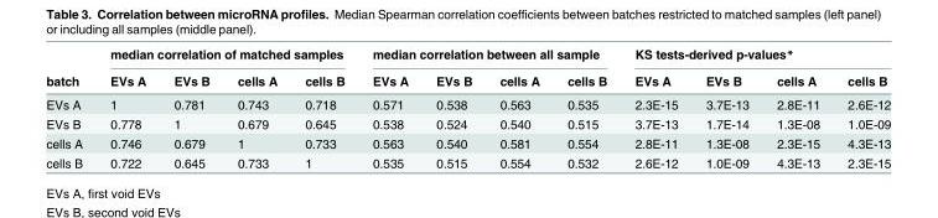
<table><thead><tr><td rowspan="2">batch</td><td colspan="4">median correlation of matched samples</td><td colspan="4">median correlation between all sample</td><td colspan="4">KS tests-derived p-values*</td></tr><tr><td>EVs A</td><td>EVs B</td><td>cells A</td><td>cells B</td><td>EVs A</td><td>EVs B</td><td>cells A</td><td>cells B</td><td>EVs A</td><td>EVs B</td><td>cells A</td><td>cells B</td></tr></thead><tbody><tr><td>EVs A</td><td>1</td><td>0.781</td><td>0.743</td><td>0.718</td><td>0.571</td><td>0.538</td><td>0.563</td><td>0.535</td><td>2.3E-15</td><td>3.7E-13</td><td>2.8E-11</td><td>2.6E-12</td></tr><tr><td>EVs B</td><td>0.778</td><td>1</td><td>0.679</td><td>0.645</td><td>0.538</td><td>0.524</td><td>0.540</td><td>0.515</td><td>3.7E-13</td><td>1.7E-14</td><td>1.3E-08</td><td>1.0E-09</td></tr><tr><td>cells A</td><td>0.746</td><td>0.679</td><td>1</td><td>0.733</td><td>0.563</td><td>0.540</td><td>0.581</td><td>0.554</td><td>2.8E-11</td><td>1.3E-08</td><td>2.3E-15</td><td>4.3E-13</td></tr><tr><td>cells B</td><td>0.722</td><td>0.645</td><td>0.733</td><td>1</td><td>0.535</td><td>0.515</td><td>0.554</td><td>0.532</td><td>2.6E-12</td><td>1.0E-09</td><td>4.3E-13</td><td>2.3E-15</td></tr></tbody></table>